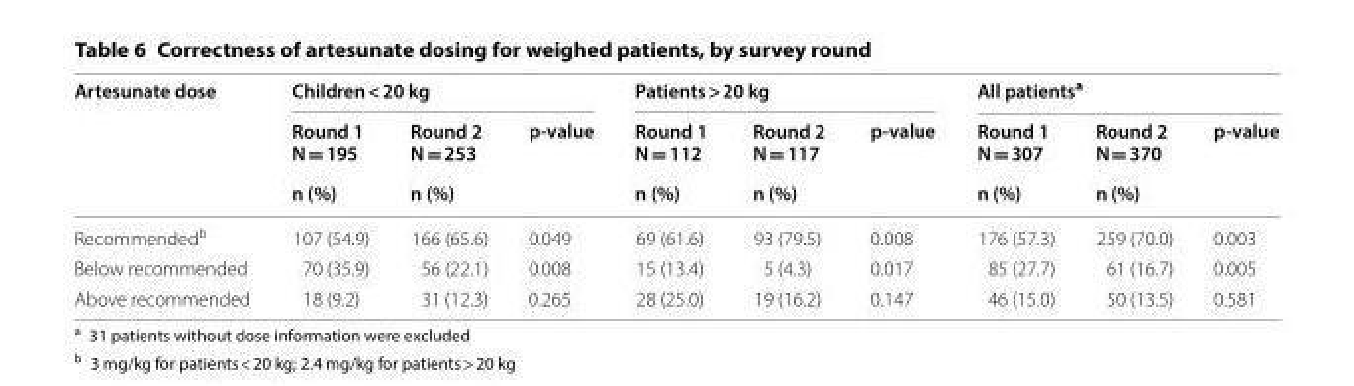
<table><thead><tr><td rowspan="3">Artesunate dose</td><td colspan="3">Children &lt; 20 kg</td><td colspan="3">Patients &gt; 20 kg</td><td colspan="3">All patients<sup>a</sup></td></tr><tr><td rowspan="2">Round 1 N = 195 n (%)</td><td rowspan="2">Round 2 N = 253 n (%)</td><td rowspan="2">p‑value</td><td rowspan="2">Round 1 N = 112 n (%)</td><td rowspan="2">Round 2 N = 117 n (%)</td><td rowspan="2">p‑value</td><td rowspan="2">Round 1 N = 307 n (%)</td><td rowspan="2">Round 2 N = 370 n (%)</td><td rowspan="2">p‑value</td></tr><tr></tr></thead><tbody><tr><td>Recommended<sup>b</sup></td><td>107 (54.9)</td><td>166 (65.6)</td><td>0.049</td><td>69 (61.6)</td><td>93 (79.5)</td><td>0.008</td><td>176 (57.3)</td><td>259 (70.0)</td><td>0.003</td></tr><tr><td>Below recommended</td><td>70 (35.9)</td><td>56 (22.1)</td><td>0.008</td><td>15 (13.4)</td><td>5 (4.3)</td><td>0.017</td><td>85 (27.7)</td><td>61 (16.7)</td><td>0.005</td></tr><tr><td>Above recommended</td><td>18 (9.2)</td><td>31 (12.3)</td><td>0.265</td><td>28 (25.0)</td><td>19 (16.2)</td><td>0.147</td><td>46 (15.0)</td><td>50 (13.5)</td><td>0.581</td></tr></tbody></table>